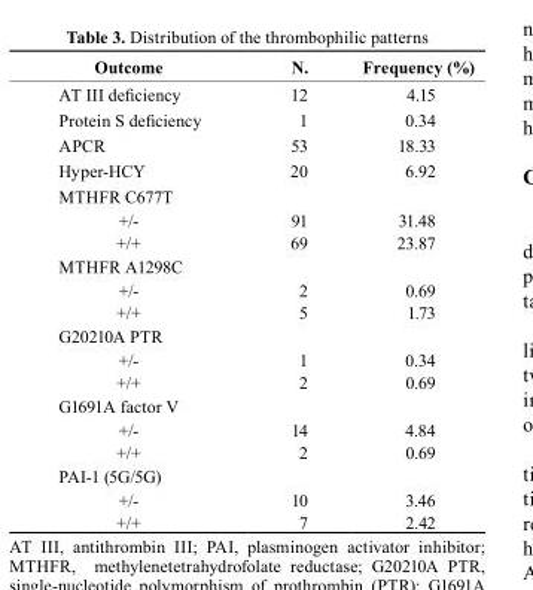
<table><thead><tr><td>Outcome</td><td>N.</td><td>Frequency (%)</td></tr></thead><tbody><tr><td>AT III deficiency</td><td>12</td><td>4.15</td></tr><tr><td>Protein S deficiency</td><td>1</td><td>0.34</td></tr><tr><td>APCR</td><td>53</td><td>18.33</td></tr><tr><td>Hyper-HCY</td><td>20</td><td>6.92</td></tr><tr><td colspan="3">MTHFR C677T</td></tr><tr><td>+/-</td><td>91</td><td>31.48</td></tr><tr><td>+/+</td><td>69</td><td>23.87</td></tr><tr><td colspan="3">MTHFR A1298C</td></tr><tr><td>+/-</td><td>2</td><td>0.69</td></tr><tr><td>+/+</td><td>5</td><td>1.73</td></tr><tr><td colspan="3">G20210A PTR</td></tr><tr><td>+/-</td><td>1</td><td>0.34</td></tr><tr><td>+/+</td><td>2</td><td>0.69</td></tr><tr><td colspan="3">G1691A factor V</td></tr><tr><td>+/-</td><td>14</td><td>4.84</td></tr><tr><td>+/+</td><td>2</td><td>0.69</td></tr><tr><td colspan="3">PAI-1 (5G/5G)</td></tr><tr><td>+/-</td><td>10</td><td>3.46</td></tr><tr><td>+/+</td><td>7</td><td>2.42</td></tr></tbody></table>